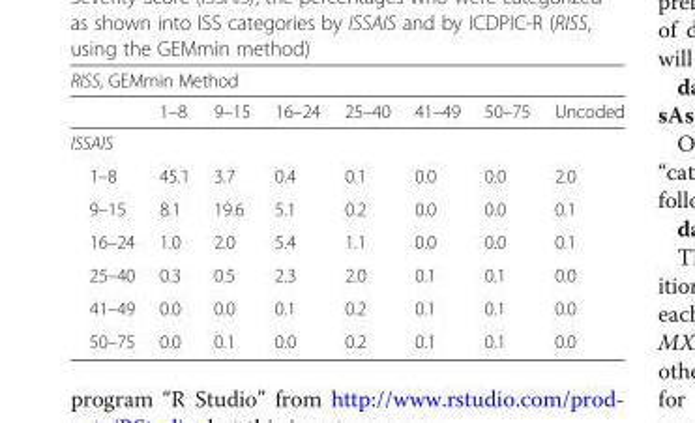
<table><thead><tr><td colspan="8">RISS, GEMmin Method</td></tr><tr><td></td><td>1–8</td><td>9–15</td><td>16–24</td><td>25–40</td><td>41–49</td><td>50–75</td><td>Uncoded</td></tr></thead><tbody><tr><td colspan="8">ISSAIS</td></tr><tr><td>1–8</td><td>45.1</td><td>3.7</td><td>0.4</td><td>0.1</td><td>0.0</td><td>0.0</td><td>2.0</td></tr><tr><td>9–15</td><td>8.1</td><td>19.6</td><td>5.1</td><td>0.2</td><td>0.0</td><td>0.0</td><td>0.1</td></tr><tr><td>16–24</td><td>1.0</td><td>2.0</td><td>5.4</td><td>1.1</td><td>0.0</td><td>0.0</td><td>0.1</td></tr><tr><td>25–40</td><td>0.3</td><td>0.5</td><td>2.3</td><td>2.0</td><td>0.1</td><td>0.1</td><td>0.0</td></tr><tr><td>41–49</td><td>0.0</td><td>0.0</td><td>0.1</td><td>0.2</td><td>0.1</td><td>0.1</td><td>0.0</td></tr><tr><td>50–75</td><td>0.0</td><td>0.1</td><td>0.0</td><td>0.2</td><td>0.1</td><td>0.1</td><td>0.0</td></tr></tbody></table>